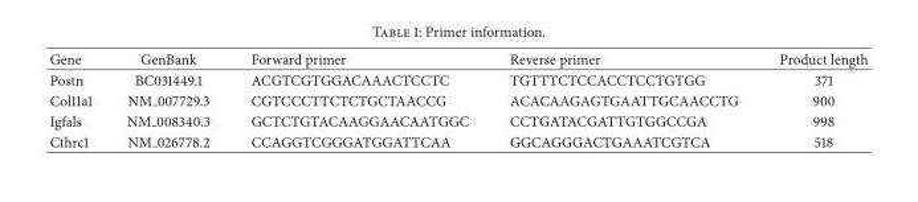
<table><thead><tr><td>Gene</td><td>GenBank</td><td>Forward primer</td><td>Reverse primer</td><td>Product length</td></tr></thead><tbody><tr><td>Postn</td><td>BC031449.1</td><td>ACGTCGTGGACAAACTCCTC</td><td>TGTTTCTCCACCTCCTGTGG</td><td>371</td></tr><tr><td>Col11a1</td><td>NM 007729.3</td><td>CGTCCCTTCTCTGCTAACCG</td><td>ACACAAGAGTGAATTGCAACCTG</td><td>900</td></tr><tr><td>Igfals</td><td>NM 008340.3</td><td>GCTCTGTACAAGGAACAATGGC</td><td>CCTGATACGATTGTGGCCGA</td><td>998</td></tr><tr><td>Cthrc1</td><td>NM 026778.2</td><td>CCAGGTCGGGATGGATTCAA</td><td>GGCAGGGACTGAAATCGTCA</td><td>518</td></tr></tbody></table>